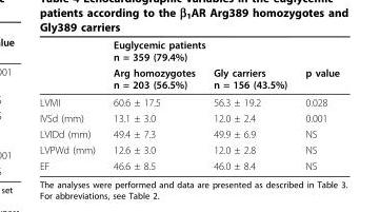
<table><thead><tr><td rowspan="2"></td><td colspan="2">Euglycemic patients n = 359 (79.4%)</td><td rowspan="2">p value</td></tr><tr><td>Arg homozygotes n = 203 (56.5%)</td><td>Gly carriers n = 156 (43.5%)</td></tr></thead><tbody><tr><td>LVMI</td><td>60.6 ± 17.5</td><td>56.3 ± 19.2</td><td>0.028</td></tr><tr><td>IVSd (mm)</td><td>13.1 ± 3.0</td><td>12.0 ± 2.4</td><td>0.001</td></tr><tr><td>LVIDd (mm)</td><td>49.4 ± 7.3</td><td>49.9 ± 6.9</td><td>NS</td></tr><tr><td>LVPWd (mm)</td><td>12.6 ± 3.0</td><td>12.0 ± 2.8</td><td>NS</td></tr><tr><td>EF</td><td>46.6 ± 8.5</td><td>46.0 ± 8.4</td><td>NS</td></tr></tbody></table>